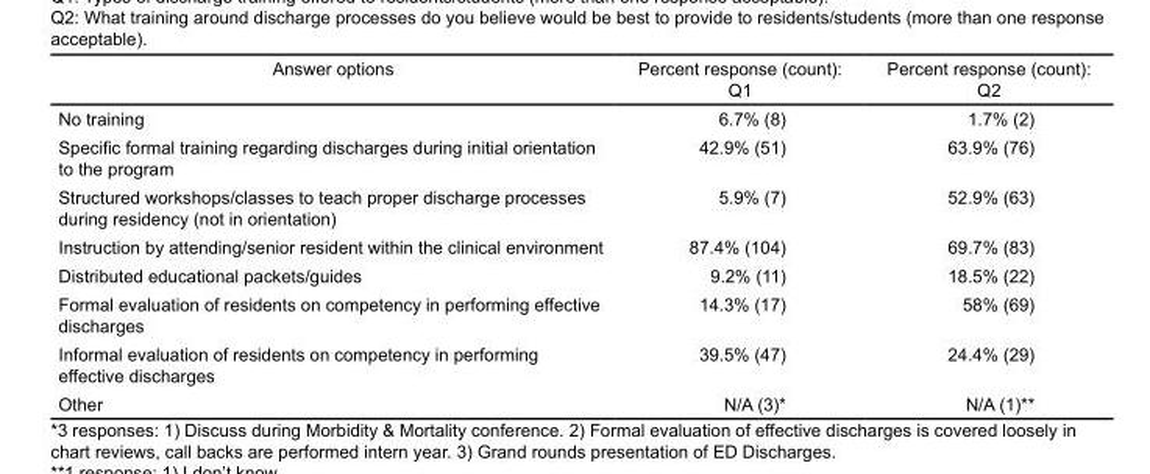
<table><thead><tr><td>Answer options</td><td>Percent response (count): Q1</td><td>Percent response (count): Q2</td></tr></thead><tbody><tr><td>No training</td><td>6.7% (8)</td><td>1.7% (2)</td></tr><tr><td>Specific formal training regarding discharges during initial orientation to the program</td><td>42.9% (51)</td><td>63.9% (76)</td></tr><tr><td>Structured workshops/classes to teach proper discharge processes during residency (not in orientation)</td><td>5.9% (7)</td><td>52.9% (63)</td></tr><tr><td>Instruction by attending/senior resident within the clinical environment</td><td>87.4% (104)</td><td>69.7% (83)</td></tr><tr><td>Distributed educational packets/guides</td><td>9.2% (11)</td><td>18.5% (22)</td></tr><tr><td>Formal evaluation of residents on competency in performing effective discharges</td><td>14.3% (17)</td><td>58% (69)</td></tr><tr><td>Informal evaluation of residents on competency in performing effective discharges</td><td>39.5% (47)</td><td>24.4% (29)</td></tr><tr><td>Other</td><td>N/A (3)*</td><td>N/A (1)**</td></tr></tbody></table>